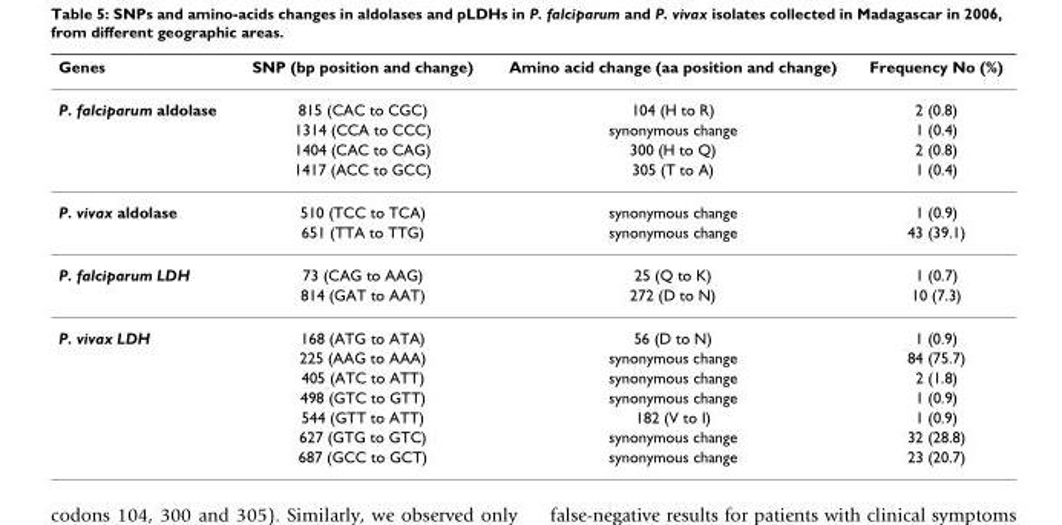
<table><thead><tr><td>Genes</td><td>SNP (bp position and change)</td><td>Amino acid change (aa position and change)</td><td>Frequency No (%)</td></tr></thead><tbody><tr><td rowspan="4">P. falciparum aldolase</td><td>815 (CAC to CGC)</td><td>104 (H to R)</td><td>2 (0.8)</td></tr><tr><td>1314 (CCA to CCC)</td><td>synonymous change</td><td>1 (0.4)</td></tr><tr><td>1404 (CAC to CAG)</td><td>300 (H to Q)</td><td>2 (0.8)</td></tr><tr><td>1417 (ACC to GCC)</td><td>305 (T to A)</td><td>1 (0.4)</td></tr><tr><td rowspan="2">P. vivax aldolase</td><td>510 (TCC to TCA)</td><td>synonymous change</td><td>1 (0.9)</td></tr><tr><td>651 (TTA to TTG)</td><td>synonymous change</td><td>43 (39.1)</td></tr><tr><td rowspan="2">P. falciparum LDH</td><td>73 (CAG to AAG)</td><td>25 (Q to K)</td><td>1 (0.7)</td></tr><tr><td>814 (GAT to AAT)</td><td>272 (D to N)</td><td>10 (7.3)</td></tr><tr><td rowspan="7">P. vivax LDH</td><td>168 (ATG to ATA)</td><td>56 (D to N)</td><td>1 (0.9)</td></tr><tr><td>225 (AAG to AAA)</td><td>synonymous change</td><td>84 (75.7)</td></tr><tr><td>405 (ATC to ATT)</td><td>synonymous change</td><td>2 (1.8)</td></tr><tr><td>498 (GTC to GTT)</td><td>synonymous change</td><td>1 (0.9)</td></tr><tr><td>544 (GTT to ATT)</td><td>182 (V to I)</td><td>1 (0.9)</td></tr><tr><td>627 (GTG to GTC)</td><td>synonymous change</td><td>32 (28.8)</td></tr><tr><td>687 (GCC to GCT)</td><td>synonymous change</td><td>23 (20.7)</td></tr></tbody></table>